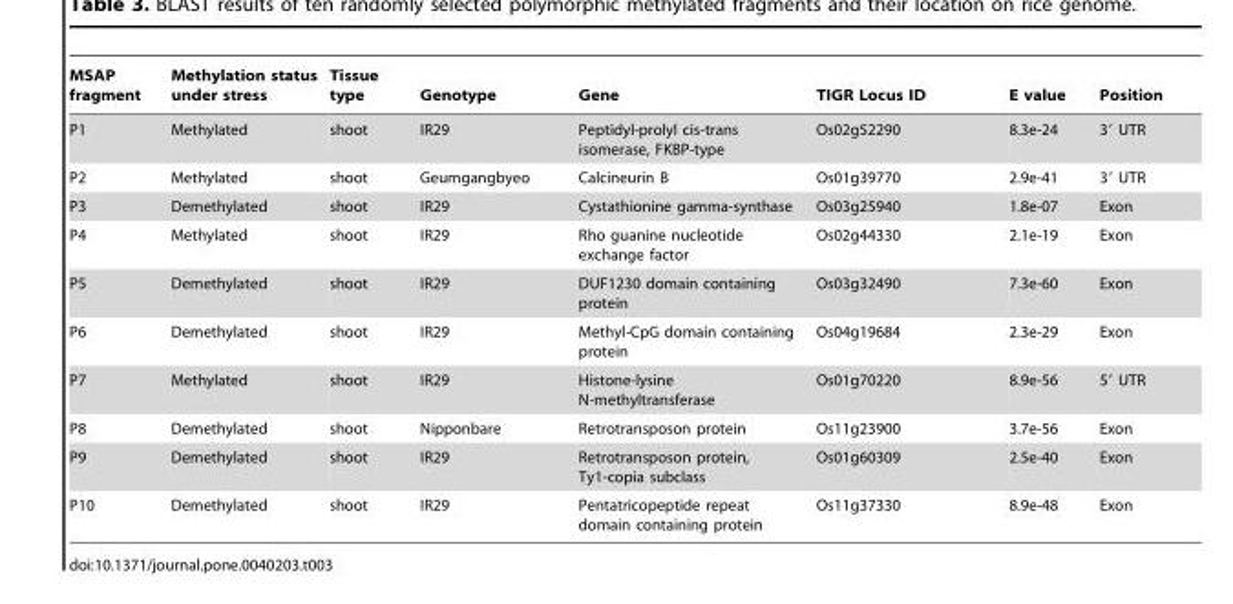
<table><thead><tr><td>MSAP fragment</td><td>Methylation status under stress</td><td>Tissue type</td><td>Genotype</td><td>Gene</td><td>TIGR Locus ID</td><td>E value</td><td>Position</td></tr></thead><tbody><tr><td>P1</td><td>Methylated</td><td>shoot</td><td>IR29</td><td>Peptidyl-prolyl cis-trans isomerase, FKBP-type</td><td>Os02g52290</td><td>8.3e-24</td><td>3′ UTR</td></tr><tr><td>P2</td><td>Methylated</td><td>shoot</td><td>Geumgangbyeo</td><td>Calcineurin B</td><td>Os01g39770</td><td>2.9e-41</td><td>3′ UTR</td></tr><tr><td>P3</td><td>Demethylated</td><td>shoot</td><td>IR29</td><td>Cystathionine gamma-synthase</td><td>Os03g25940</td><td>1.8e-07</td><td>Exon</td></tr><tr><td>P4</td><td>Methylated</td><td>shoot</td><td>IR29</td><td>Rho guanine nucleotide exchange factor</td><td>Os02g44330</td><td>2.1e-19</td><td>Exon</td></tr><tr><td>P5</td><td>Demethylated</td><td>shoot</td><td>IR29</td><td>DUF1230 domain containing protein</td><td>Os03g32490</td><td>7.3e-60</td><td>Exon</td></tr><tr><td>P6</td><td>Demethylated</td><td>shoot</td><td>IR29</td><td>Methyl-CpG domain containing protein</td><td>Os04g19684</td><td>2.3e-29</td><td>Exon</td></tr><tr><td>P7</td><td>Methylated</td><td>shoot</td><td>IR29</td><td>Histone-lysine N-methyltransferase</td><td>Os01g70220</td><td>8.9e-56</td><td>5′ UTR</td></tr><tr><td>P8</td><td>Demethylated</td><td>shoot</td><td>Nipponbare</td><td>Retrotransposon protein</td><td>Os11g23900</td><td>3.7e-56</td><td>Exon</td></tr><tr><td>P9</td><td>Demethylated</td><td>shoot</td><td>IR29</td><td>Retrotransposon protein, Ty1-copia subclass</td><td>Os01g60309</td><td>2.5e-40</td><td>Exon</td></tr><tr><td>P10</td><td>Demethylated</td><td>shoot</td><td>IR29</td><td>Pentatricopeptide repeat domain containing protein</td><td>Os11g37330</td><td>8.9e-48</td><td>Exon</td></tr></tbody></table>